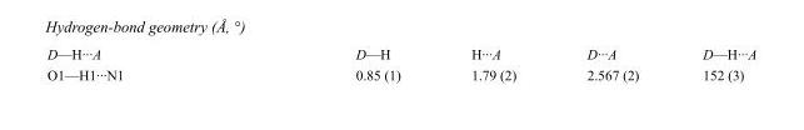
<table><tbody><tr><td>D—H···A</td><td>D—H</td><td>H···A</td><td>D···A</td><td>D—H···A</td></tr><tr><td>O1—H1···N1</td><td>0.85 (1)</td><td>1.79 (2)</td><td>2.567 (2)</td><td>152 (3)</td></tr></tbody></table>